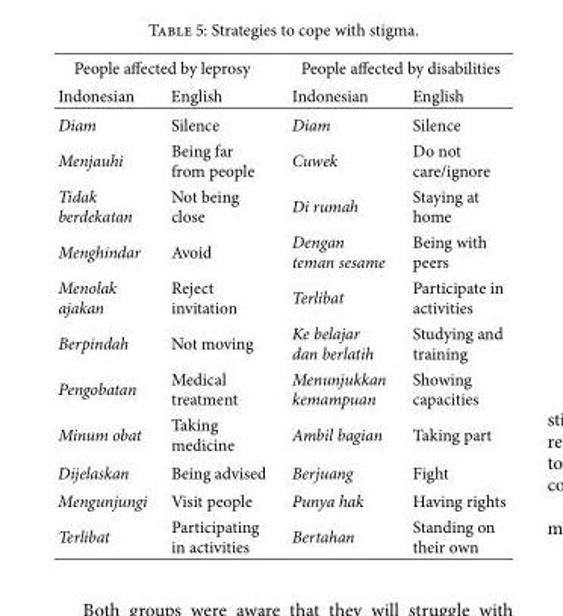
<table><thead><tr><td colspan="2">People affected by leprosy</td><td colspan="2">People affected by disabilities</td></tr><tr><td>Indonesian</td><td>English</td><td>Indonesian</td><td>English</td></tr></thead><tbody><tr><td>Diam</td><td>Silence</td><td>Diam</td><td>Silence</td></tr><tr><td>Menjauhi</td><td>Being far from people</td><td>Cuwek</td><td>Do not care/ignore</td></tr><tr><td>Tidak berdekatan</td><td>Not being close</td><td>Di rumah</td><td>Staying at home</td></tr><tr><td>Menghindar</td><td>Avoid</td><td>Dengan teman sesame</td><td>Being with peers</td></tr><tr><td>Menolak ajakan</td><td>Reject invitation</td><td>Terlibat</td><td>Participate in activities</td></tr><tr><td>Berpindah</td><td>Not moving</td><td>Ke belajar dan berlatih</td><td>Studying and training</td></tr><tr><td>Pengobatan</td><td>Medical treatment</td><td>Menunjukkan kemampuan</td><td>Showing capacities</td></tr><tr><td>Minum obat</td><td>Taking medicine</td><td>Ambil bagian</td><td>Taking part</td></tr><tr><td>Dijelaskan</td><td>Being advised</td><td>Berjuang</td><td>Fight</td></tr><tr><td>Mengunjungi</td><td>Visit people</td><td>Punya hak</td><td>Having rights</td></tr><tr><td>Terlibat</td><td>Participating in activities</td><td>Bertahan</td><td>Standing on their own</td></tr></tbody></table>